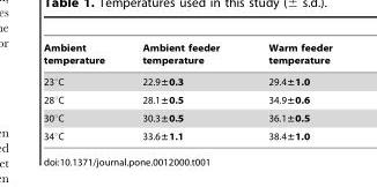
<table><thead><tr><td>Ambient temperature</td><td>Ambient feeder temperature</td><td>Warm feeder temperature</td></tr></thead><tbody><tr><td>23°C</td><td>22.9±0.3</td><td>29.4±1.0</td></tr><tr><td>28°C</td><td>28.1±0.5</td><td>34.9±0.6</td></tr><tr><td>30°C</td><td>30.3±0.5</td><td>36.1±0.5</td></tr><tr><td>34°C</td><td>33.6±1.1</td><td>38.4±1.0</td></tr></tbody></table>